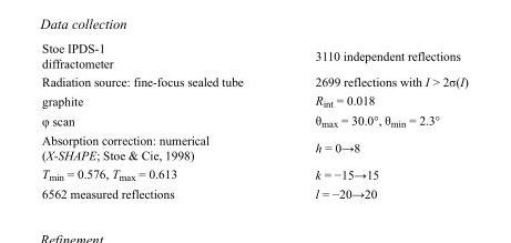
<table><tbody><tr><td>Stoe IPDS-1 diffractometer</td><td>3110 independent reflections</td></tr><tr><td>Radiation source: fine-focus sealed tube</td><td>2699 reflections with I &gt; 2σ(I)</td></tr><tr><td>graphite</td><td>R<sub>int</sub> = 0.018</td></tr><tr><td>φ scan</td><td>θ<sub>max</sub> = 30.0°, θ<sub>min</sub> = 2.3°</td></tr><tr><td>Absorption correction: numerical (X-SHAPE; Stoe &amp; Cie, 1998)</td><td>h = 0→8</td></tr><tr><td>T<sub>min</sub> = 0.576, T<sub>max</sub> = 0.613</td><td>k = −15→15</td></tr><tr><td>6562 measured reflections</td><td>l = −20→20</td></tr></tbody></table>